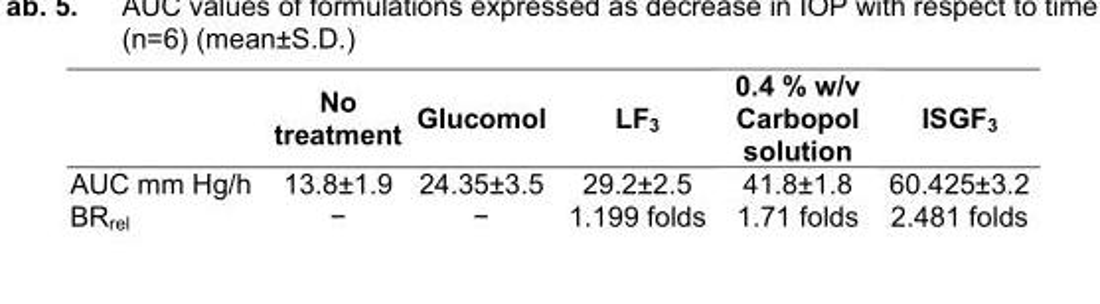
<table><thead><tr><td></td><td>No treatment</td><td>Glucomol</td><td>LF<sub>3</sub></td><td>0.4 % w/v Carbopol solution</td><td>ISGF<sub>3</sub></td></tr></thead><tbody><tr><td>AUC mm Hg/h</td><td>13.8±1.9</td><td>24.35±3.5</td><td>29.2±2.5</td><td>41.8±1.8</td><td>60.425±3.2</td></tr><tr><td>BR<sub>rel</sub></td><td>−</td><td>−</td><td>1.199 folds</td><td>1.71 folds</td><td>2.481 folds</td></tr></tbody></table>